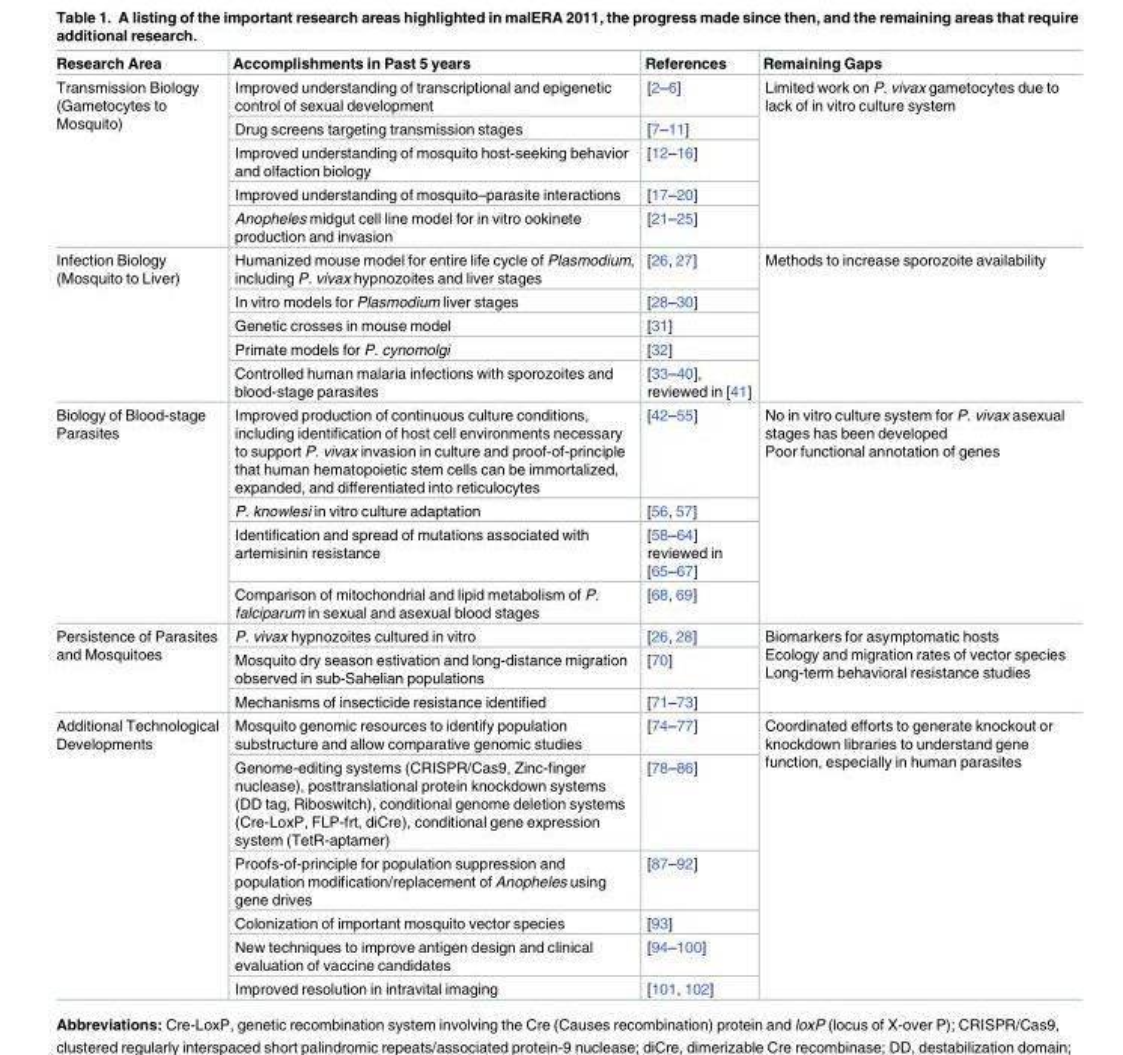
<table><thead><tr><td>Research Area</td><td>Accomplishments in Past 5 years</td><td>References</td><td>Remaining Gaps</td></tr></thead><tbody><tr><td rowspan="5">Transmission Biology (Gametocytes to Mosquito)</td><td>Improved understanding of transcriptional and epigenetic control of sexual development</td><td>[2–6]</td><td rowspan="5">Limited work on P. vivax gametocytes due to lack of in vitro culture system</td></tr><tr><td>Drug screens targeting transmission stages</td><td>[7–11]</td></tr><tr><td>Improved understanding of mosquito host-seeking behavior and olfaction biology</td><td>[12–16]</td></tr><tr><td>Improved understanding of mosquito–parasite interactions</td><td>[17–20]</td></tr><tr><td>Anopheles midgut cell line model for in vitro ookinete production and invasion</td><td>[21–25]</td></tr><tr><td rowspan="5">Infection Biology (Mosquito to Liver)</td><td>Humanized mouse model for entire life cycle of Plasmodium, including P. vivax hypnozoites and liver stages</td><td>[26, 27]</td><td rowspan="5">Methods to increase sporozoite availability</td></tr><tr><td>In vitro models for Plasmodium liver stages</td><td>[28–30]</td></tr><tr><td>Genetic crosses in mouse model</td><td>[31]</td></tr><tr><td>Primate models for P. cynomolgi</td><td>[32]</td></tr><tr><td>Controlled human malaria infections with sporozoites and blood-stage parasites</td><td>[33–40], reviewed in [41]</td></tr><tr><td rowspan="4">Biology of Blood-stage Parasites</td><td>Improved production of continuous culture conditions, including identification of host cell environments necessary to support P. vivax invasion in culture and proof-of-principle that human hematopoietic stem cells can be immortalized, expanded, and differentiated into reticulocytes</td><td>[42–55]</td><td rowspan="4">No in vitro culture system for P. vivax asexual stages has been developed Poor functional annotation of genes</td></tr><tr><td>P. knowlesi in vitro culture adaptation</td><td>[56, 57]</td></tr><tr><td>Identification and spread of mutations associated with artemisinin resistance</td><td>[58–64] reviewed in [65–67]</td></tr><tr><td>Comparison of mitochondrial and lipid metabolism of P. falciparum in sexual and asexual blood stages</td><td>[68, 69]</td></tr><tr><td rowspan="3">Persistence of Parasites and Mosquitoes</td><td>P. vivax hypnozoites cultured in vitro</td><td>[26, 28]</td><td rowspan="3">Biomarkers for asymptomatic hosts Ecology and migration rates of vector species Long-term behavioral resistance studies</td></tr><tr><td>Mosquito dry season estivation and long-distance migration observed in sub-Sahelian populations</td><td>[70]</td></tr><tr><td>Mechanisms of insecticide resistance identified</td><td>[71–73]</td></tr><tr><td rowspan="6">Additional Technological Developments</td><td>Mosquito genomic resources to identify population substructure and allow comparative genomic studies</td><td>[74–77]</td><td rowspan="6">Coordinated efforts to generate knockout or knockdown libraries to understand gene function, especially in human parasites</td></tr><tr><td>Genome-editing systems (CRISPR/Cas9, Zinc-finger nuclease), posttranslational protein knockdown systems (DD tag, Riboswitch), conditional genome deletion systems (Cre-LoxP, FLP-frt, diCre), conditional gene expression system (TetR-aptamer)</td><td>[78–86]</td></tr><tr><td>Proofs-of-principle for population suppression and population modification/replacement of Anopheles using gene drives</td><td>[87–92]</td></tr><tr><td>Colonization of important mosquito vector species</td><td>[93]</td></tr><tr><td>New techniques to improve antigen design and clinical evaluation of vaccine candidates</td><td>[94–100]</td></tr><tr><td>Improved resolution in intravital imaging</td><td>[101, 102]</td></tr></tbody></table>